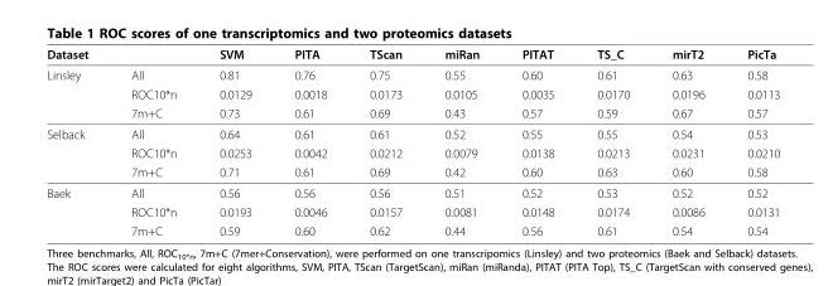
<table><thead><tr><td>Dataset</td><td></td><td>SVM</td><td>PITA</td><td>TScan</td><td>miRan</td><td>PITAT</td><td>TS_C</td><td>mirT2</td><td>PicTa</td></tr></thead><tbody><tr><td rowspan="3">Linsley</td><td>All</td><td>0.81</td><td>0.76</td><td>0.75</td><td>0.55</td><td>0.60</td><td>0.61</td><td>0.63</td><td>0.58</td></tr><tr><td>ROC10*n</td><td>0.0129</td><td>0.0018</td><td>0.0173</td><td>0.0105</td><td>0.0035</td><td>0.0170</td><td>0.0196</td><td>0.0113</td></tr><tr><td>7m+C</td><td>0.73</td><td>0.61</td><td>0.69</td><td>0.43</td><td>0.57</td><td>0.59</td><td>0.67</td><td>0.57</td></tr><tr><td rowspan="3">Selback</td><td>All</td><td>0.64</td><td>0.61</td><td>0.61</td><td>0.52</td><td>0.55</td><td>0.55</td><td>0.54</td><td>0.53</td></tr><tr><td>ROC10*n</td><td>0.0253</td><td>0.0042</td><td>0.0212</td><td>0.0079</td><td>0.0138</td><td>0.0213</td><td>0.0231</td><td>0.0210</td></tr><tr><td>7m+C</td><td>0.71</td><td>0.61</td><td>0.69</td><td>0.42</td><td>0.60</td><td>0.63</td><td>0.60</td><td>0.58</td></tr><tr><td rowspan="3">Baek</td><td>All</td><td>0.56</td><td>0.56</td><td>0.56</td><td>0.51</td><td>0.52</td><td>0.53</td><td>0.52</td><td>0.52</td></tr><tr><td>ROC10*n</td><td>0.0193</td><td>0.0046</td><td>0.0157</td><td>0.0081</td><td>0.0148</td><td>0.0174</td><td>0.0086</td><td>0.0131</td></tr><tr><td>7m+C</td><td>0.59</td><td>0.60</td><td>0.62</td><td>0.44</td><td>0.56</td><td>0.61</td><td>0.54</td><td>0.54</td></tr></tbody></table>